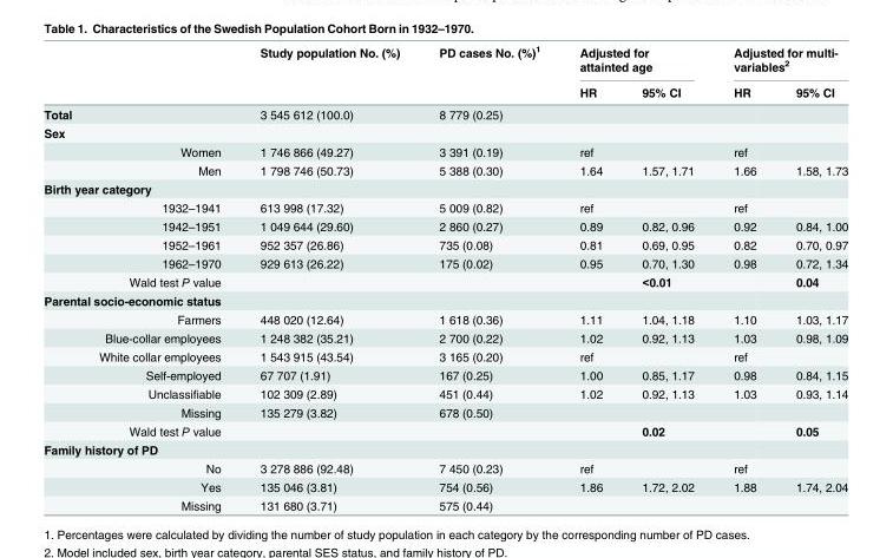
<table><thead><tr><td rowspan="2"></td><td rowspan="2">Study population No. (%)</td><td rowspan="2">PD cases No. (%)<sup>1</sup></td><td colspan="2">Adjusted for attainted age</td><td colspan="2">Adjusted for multi- variables<sup>2</sup></td></tr><tr><td>HR</td><td>95% CI</td><td>HR</td><td>95% CI</td></tr></thead><tbody><tr><td>Total</td><td>3 545 612 (100.0)</td><td>8 779 (0.25)</td><td></td><td></td><td></td><td></td></tr><tr><td colspan="7">Sex</td></tr><tr><td>Women</td><td>1 746 866 (49.27)</td><td>3 391 (0.19)</td><td>ref</td><td></td><td>ref</td><td></td></tr><tr><td>Men</td><td>1 798 746 (50.73)</td><td>5 388 (0.30)</td><td>1.64</td><td>1.57, 1.71</td><td>1.66</td><td>1.58, 1.73</td></tr><tr><td colspan="7">Birth year category</td></tr><tr><td>1932–1941</td><td>613 998 (17.32)</td><td>5 009 (0.82)</td><td>ref</td><td></td><td>ref</td><td></td></tr><tr><td>1942–1951</td><td>1 049 644 (29.60)</td><td>2 860 (0.27)</td><td>0.89</td><td>0.82, 0.96</td><td>0.92</td><td>0.84, 1.00</td></tr><tr><td>1952–1961</td><td>952 357 (26.86)</td><td>735 (0.08)</td><td>0.81</td><td>0.69, 0.95</td><td>0.82</td><td>0.70, 0.97</td></tr><tr><td>1962–1970</td><td>929 613 (26.22)</td><td>175 (0.02)</td><td>0.95</td><td>0.70, 1.30</td><td>0.98</td><td>0.72, 1.34</td></tr><tr><td>Wald test P value</td><td></td><td></td><td></td><td>&lt;0.01</td><td></td><td>0.04</td></tr><tr><td colspan="7">Parental socio-economic status</td></tr><tr><td>Farmers</td><td>448 020 (12.64)</td><td>1 618 (0.36)</td><td>1.11</td><td>1.04, 1.18</td><td>1.10</td><td>1.03, 1.17</td></tr><tr><td>Blue-collar employees</td><td>1 248 382 (35.21)</td><td>2 700 (0.22)</td><td>1.02</td><td>0.92, 1.13</td><td>1.03</td><td>0.98, 1.09</td></tr><tr><td>White collar employees</td><td>1 543 915 (43.54)</td><td>3 165 (0.20)</td><td>ref</td><td></td><td>ref</td><td></td></tr><tr><td>Self-employed</td><td>67 707 (1.91)</td><td>167 (0.25)</td><td>1.00</td><td>0.85, 1.17</td><td>0.98</td><td>0.84, 1.15</td></tr><tr><td>Unclassifiable</td><td>102 309 (2.89)</td><td>451 (0.44)</td><td>1.02</td><td>0.92, 1.13</td><td>1.03</td><td>0.93, 1.14</td></tr><tr><td>Missing</td><td>135 279 (3.82)</td><td>678 (0.50)</td><td></td><td></td><td></td><td></td></tr><tr><td>Wald test P value</td><td></td><td></td><td></td><td>0.02</td><td></td><td>0.05</td></tr><tr><td colspan="7">Family history of PD</td></tr><tr><td>No</td><td>3 278 886 (92.48)</td><td>7 450 (0.23)</td><td>ref</td><td></td><td>ref</td><td></td></tr><tr><td>Yes</td><td>135 046 (3.81)</td><td>754 (0.56)</td><td>1.86</td><td>1.72, 2.02</td><td>1.88</td><td>1.74, 2.04</td></tr><tr><td>Missing</td><td>131 680 (3.71)</td><td>575 (0.44)</td><td></td><td></td><td></td><td></td></tr></tbody></table>